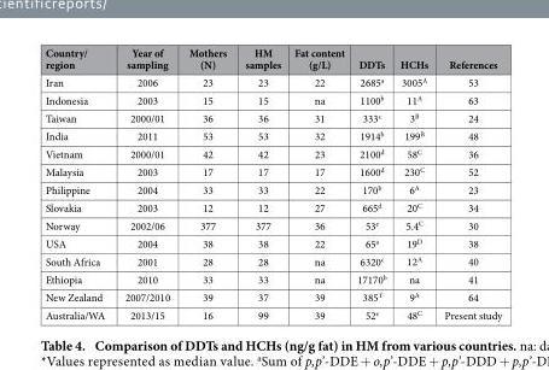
<table><thead><tr><td>Country/ region</td><td>Year of sampling</td><td>Mothers (N)</td><td>HM samples</td><td>Fat content (g/L)</td><td>DDTs</td><td>HCHs</td><td>References</td></tr></thead><tbody><tr><td>Iran</td><td>2006</td><td>23</td><td>23</td><td>22</td><td>2685<sup>a</sup></td><td>3005<sup>A</sup></td><td>53</td></tr><tr><td>Indonesia</td><td>2003</td><td>15</td><td>15</td><td>na</td><td>1100<sup>b</sup></td><td>11<sup>A</sup></td><td>63</td></tr><tr><td>Taiwan</td><td>2000/01</td><td>36</td><td>36</td><td>31</td><td>333<sup>c</sup></td><td>3<sup>B</sup></td><td>24</td></tr><tr><td>India</td><td>2011</td><td>53</td><td>53</td><td>32</td><td>1914<sup>b</sup></td><td>199<sup>B</sup></td><td>48</td></tr><tr><td>Vietnam</td><td>2000/01</td><td>42</td><td>42</td><td>23</td><td>2100<sup>d</sup></td><td>58<sup>C</sup></td><td>36</td></tr><tr><td>Malaysia</td><td>2003</td><td>17</td><td>17</td><td>17</td><td>1600<sup>d</sup></td><td>230<sup>C</sup></td><td>52</td></tr><tr><td>Philippine</td><td>2004</td><td>33</td><td>33</td><td>22</td><td>170<sup>b</sup></td><td>6<sup>A</sup></td><td>23</td></tr><tr><td>Slovakia</td><td>2003</td><td>12</td><td>12</td><td>27</td><td>665<sup>d</sup></td><td>20<sup>C</sup></td><td>34</td></tr><tr><td>Norway</td><td>2002/06</td><td>377</td><td>377</td><td>36</td><td>53<sup>e</sup></td><td>5.4<sup>C</sup></td><td>30</td></tr><tr><td>USA</td><td>2004</td><td>38</td><td>38</td><td>22</td><td>65<sup>a</sup></td><td>19<sup>D</sup></td><td>38</td></tr><tr><td>South Africa</td><td>2001</td><td>28</td><td>28</td><td>na</td><td>6320<sup>c</sup></td><td>12<sup>A</sup></td><td>40</td></tr><tr><td>Ethiopia</td><td>2010</td><td>33</td><td>33</td><td>na</td><td>17170<sup>b</sup></td><td>na</td><td>41</td></tr><tr><td>New Zealand</td><td>2007/2010</td><td>39</td><td>37</td><td>39</td><td>385 <sup>f</sup></td><td>9<sup>A</sup></td><td>64</td></tr><tr><td>Australia/WA</td><td>2013/15</td><td>16</td><td>99</td><td>39</td><td>52<sup>e</sup></td><td>48<sup>C</sup></td><td>Present study</td></tr></tbody></table>